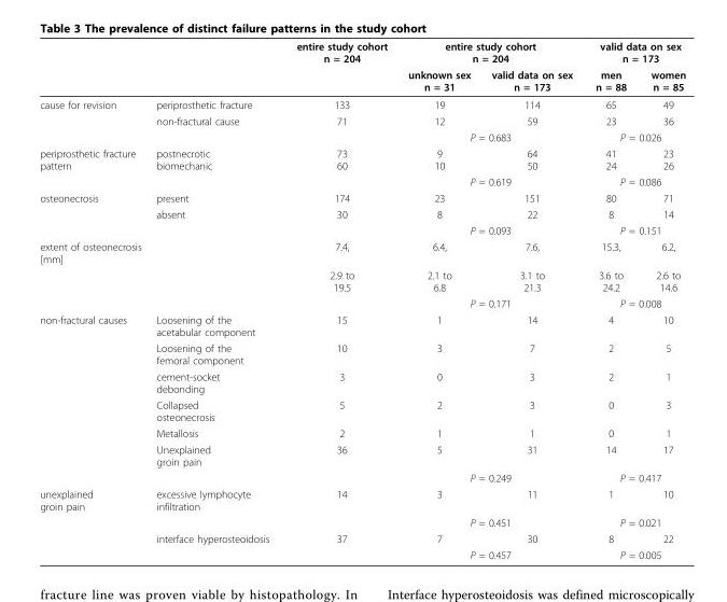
<table><thead><tr><td rowspan="2"></td><td rowspan="2"></td><td rowspan="2">entire study cohort n = 204</td><td colspan="2">entire study cohort n = 204</td><td colspan="2">valid data on sex n = 173</td></tr><tr><td>unknown sex n = 31</td><td>valid data on sex n = 173</td><td>men n = 88</td><td>women n = 85</td></tr></thead><tbody><tr><td rowspan="3">cause for revision</td><td>periprosthetic fracture</td><td>133</td><td>19</td><td>114</td><td>65</td><td>49</td></tr><tr><td>non-fractural cause</td><td>71</td><td>12</td><td>59</td><td>23</td><td>36</td></tr><tr><td></td><td></td><td colspan="2">P = 0.683</td><td colspan="2">P = 0.026</td></tr><tr><td rowspan="2">periprosthetic fracture pattern</td><td>postnecrotic biomechanic</td><td>73 60</td><td>9 10</td><td>64 50</td><td>41 24</td><td>23 26</td></tr><tr><td></td><td></td><td colspan="2">P = 0.619</td><td colspan="2">P = 0.086</td></tr><tr><td rowspan="3">osteonecrosis</td><td>present</td><td>174</td><td>23</td><td>151</td><td>80</td><td>71</td></tr><tr><td>absent</td><td>30</td><td>8</td><td>22</td><td>8</td><td>14</td></tr><tr><td></td><td></td><td colspan="2">P = 0.093</td><td colspan="2">P = 0.151</td></tr><tr><td colspan="2">extent of osteonecrosis [mm]</td><td>7.4,</td><td>6.4,</td><td>7.6,</td><td>15.3,</td><td>6.2,</td></tr><tr><td></td><td></td><td>2.9 to 19.5</td><td>2.1 to 6.8</td><td>3.1 to 21.3</td><td>3.6 to 24.2</td><td>2.6 to 14.6</td></tr><tr><td></td><td></td><td></td><td colspan="2">P = 0.171</td><td colspan="2">P = 0.008</td></tr><tr><td rowspan="7">non-fractural causes</td><td>Loosening of the acetabular component</td><td>15</td><td>1</td><td>14</td><td>4</td><td>10</td></tr><tr><td>Loosening of the femoral component</td><td>10</td><td>3</td><td>7</td><td>2</td><td>5</td></tr><tr><td>cement-socket debonding</td><td>3</td><td>0</td><td>3</td><td>2</td><td>1</td></tr><tr><td>Collapsed osteonecrosis</td><td>5</td><td>2</td><td>3</td><td>0</td><td>3</td></tr><tr><td>Metallosis</td><td>2</td><td>1</td><td>1</td><td>0</td><td>1</td></tr><tr><td>Unexplained groin pain</td><td>36</td><td>5</td><td>31</td><td>14</td><td>17</td></tr><tr><td></td><td></td><td colspan="2">P = 0.249</td><td colspan="2">P = 0.417</td></tr><tr><td rowspan="4">unexplained groin pain</td><td>excessive lymphocyte infiltration</td><td>14</td><td>3</td><td>11</td><td>1</td><td>10</td></tr><tr><td></td><td></td><td colspan="2">P = 0.451</td><td colspan="2">P = 0.021</td></tr><tr><td>interface hyperosteoidosis</td><td>37</td><td>7</td><td>30</td><td>8</td><td>22</td></tr><tr><td></td><td></td><td colspan="2">P = 0.457</td><td colspan="2">P = 0.005</td></tr></tbody></table>